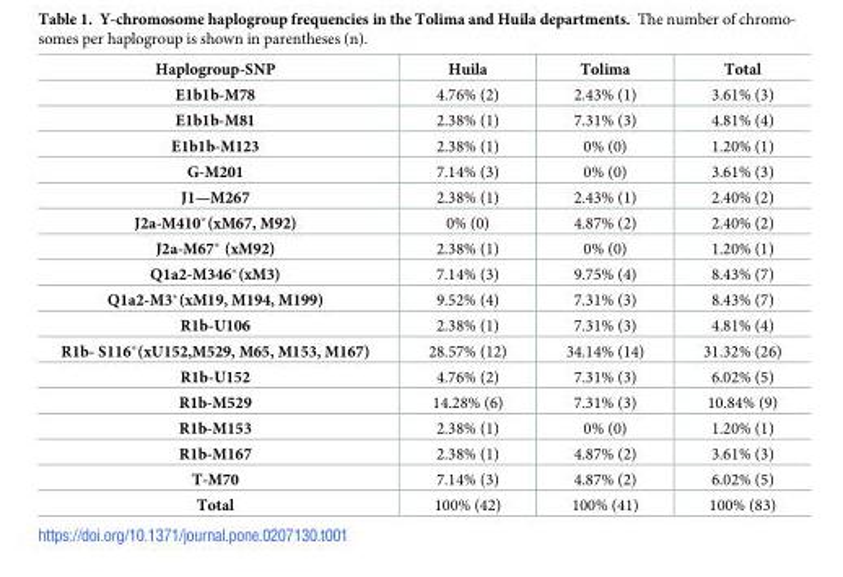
<table><thead><tr><td>Haplogroup-SNP</td><td>Huila</td><td>Tolima</td><td>Total</td></tr></thead><tbody><tr><td>E1b1b-M78</td><td>4.76% (2)</td><td>2.43% (1)</td><td>3.61% (3)</td></tr><tr><td>E1b1b-M81</td><td>2.38% (1)</td><td>7.31% (3)</td><td>4.81% (4)</td></tr><tr><td>E1b1b-M123</td><td>2.38% (1)</td><td>0% (0)</td><td>1.20% (1)</td></tr><tr><td>G-M201</td><td>7.14% (3)</td><td>0% (0)</td><td>3.61% (3)</td></tr><tr><td>J1—M267</td><td>2.38% (1)</td><td>2.43% (1)</td><td>2.40% (2)</td></tr><tr><td>J2a-M410*(xM67, M92)</td><td>0% (0)</td><td>4.87% (2)</td><td>2.40% (2)</td></tr><tr><td>J2a-M67* (xM92)</td><td>2.38% (1)</td><td>0% (0)</td><td>1.20% (1)</td></tr><tr><td>Q1a2-M346*(xM3)</td><td>7.14% (3)</td><td>9.75% (4)</td><td>8.43% (7)</td></tr><tr><td>Q1a2-M3*(xM19, M194, M199)</td><td>9.52% (4)</td><td>7.31% (3)</td><td>8.43% (7)</td></tr><tr><td>R1b-U106</td><td>2.38% (1)</td><td>7.31% (3)</td><td>4.81% (4)</td></tr><tr><td>R1b- S116*(xU152,M529, M65, M153, M167)</td><td>28.57% (12)</td><td>34.14% (14)</td><td>31.32% (26)</td></tr><tr><td>R1b-U152</td><td>4.76% (2)</td><td>7.31% (3)</td><td>6.02% (5)</td></tr><tr><td>R1b-M529</td><td>14.28% (6)</td><td>7.31% (3)</td><td>10.84% (9)</td></tr><tr><td>R1b-M153</td><td>2.38% (1)</td><td>0% (0)</td><td>1.20% (1)</td></tr><tr><td>R1b-M167</td><td>2.38% (1)</td><td>4.87% (2)</td><td>3.61% (3)</td></tr><tr><td>T-M70</td><td>7.14% (3)</td><td>4.87% (2)</td><td>6.02% (5)</td></tr><tr><td>Total</td><td>100% (42)</td><td>100% (41)</td><td>100% (83)</td></tr></tbody></table>